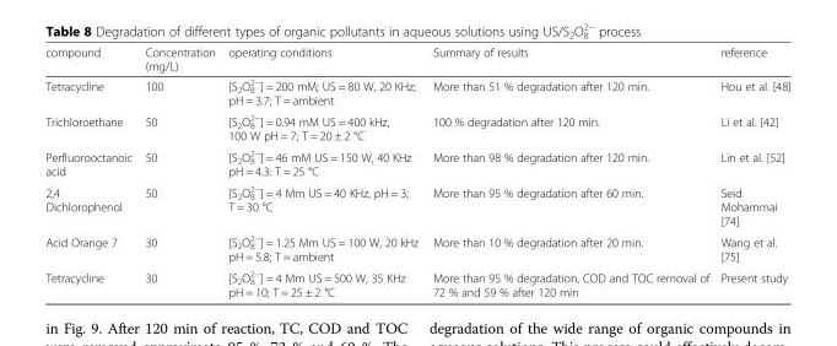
<table><thead><tr><td>compound</td><td>Concentration (mg/L)</td><td>operating conditions</td><td>Summary of results</td><td>reference</td></tr></thead><tbody><tr><td>Tetracycline</td><td>100</td><td>[S<sub>2</sub>O<sub>8</sub> <sup>2−</sup>] = 200 mM; US = 80 W, 20 KHz; pH = 3.7; T = ambient</td><td>More than 51 % degradation after 120 min.</td><td>Hou et al. [48]</td></tr><tr><td>Trichloroethane</td><td>50</td><td>[S<sub>2</sub>O<sub>8</sub> <sup>2−</sup>] = 0.94 mM US = 400 kHz, 100 W pH = 7; T = 20 ± 2 °C</td><td>100 % degradation after 120 min.</td><td>Li et al. [42]</td></tr><tr><td>Perfluorooctanoic acid</td><td>50</td><td>[S<sub>2</sub>O<sub>8</sub> <sup>2−</sup>] = 46 mM US = 150 W, 40 KHz pH = 4.3: T = 25 °C</td><td>More than 98 % degradation after 120 min.</td><td>Lin et al. [52]</td></tr><tr><td>2,4 Dichlorophenol</td><td>50</td><td>[S<sub>2</sub>O<sub>8</sub> <sup>2−</sup>] = 4 Mm US = 40 KHz, pH = 3; T = 30 °C</td><td>More than 95 % degradation after 60 min.</td><td>Seid Mohammai [74]</td></tr><tr><td>Acid Orange 7</td><td>30</td><td>[S<sub>2</sub>O<sub>8</sub> <sup>2−</sup>] = 1.25 Mm US = 100 W, 20 kHz pH = 5.8; T = ambient</td><td>More than 10 % degradation after 20 min.</td><td>Wang et al. [75]</td></tr><tr><td>Tetracycline</td><td>30</td><td>[S<sub>2</sub>O<sub>8</sub> <sup>2−</sup>] = 4 Mm US = 500 W, 35 KHz pH = 10; T = 25 ± 2 °C</td><td>More than 95 % degradation, COD and TOC removal of 72 % and 59 % after 120 min</td><td>Present study</td></tr></tbody></table>